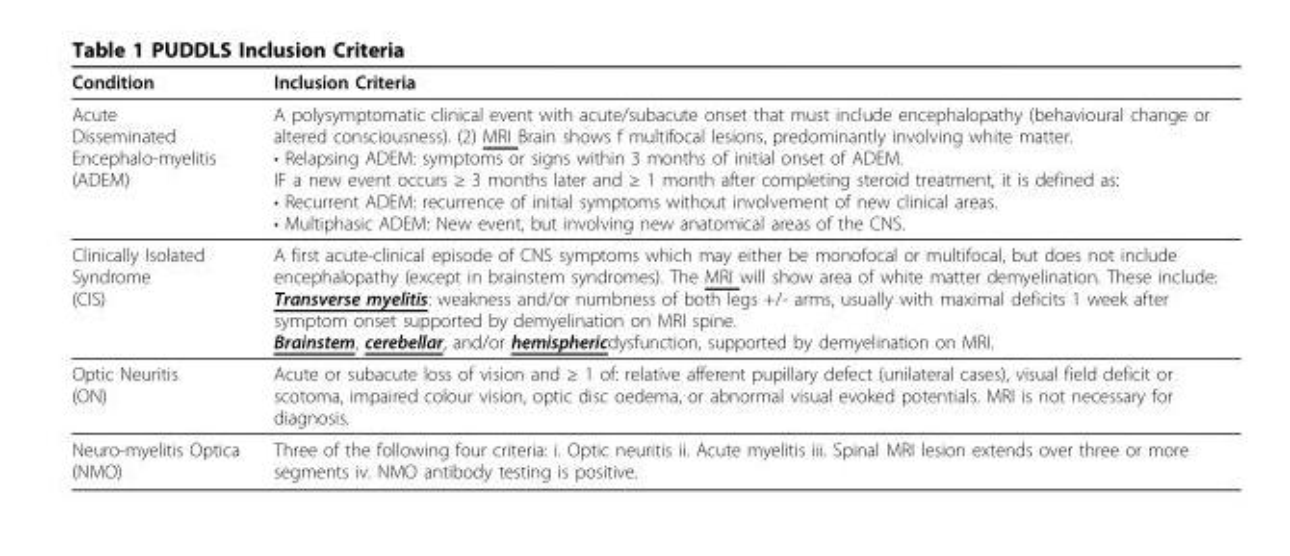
<table><thead><tr><td>Condition</td><td>Inclusion Criteria</td></tr></thead><tbody><tr><td>Acute Disseminated Encephalo-myelitis (ADEM)</td><td>A polysymptomatic clinical event with acute/subacute onset that must include encephalopathy (behavioural change or altered consciousness). (2) MRI Brain shows f multifocal lesions, predominantly involving white matter. • Relapsing ADEM: symptoms or signs within 3 months of initial onset of ADEM. IF a new event occurs ≥ 3 months later and ≥ 1 month after completing steroid treatment, it is defined as: • Recurrent ADEM: recurrence of initial symptoms without involvement of new clinical areas. • Multiphasic ADEM: New event, but involving new anatomical areas of the CNS.</td></tr><tr><td>Clinically Isolated Syndrome (CIS)</td><td>A first acute-clinical episode of CNS symptoms which may either be monofocal or multifocal, but does not include encephalopathy (except in brainstem syndromes). The MRI will show area of white matter demyelination. These include: Transverse myelitis: weakness and/or numbness of both legs +/- arms, usually with maximal deficits 1 week after symptom onset supported by demyelination on MRI spine. Brainstem, cerebellar, and/or hemisphericdysfunction, supported by demyelination on MRI.</td></tr><tr><td>Optic Neuritis (ON)</td><td>Acute or subacute loss of vision and ≥ 1 of: relative afferent pupillary defect (unilateral cases), visual field deficit or scotoma, impaired colour vision, optic disc oedema, or abnormal visual evoked potentials. MRI is not necessary for diagnosis.</td></tr><tr><td>Neuro-myelitis Optica (NMO)</td><td>Three of the following four criteria: i. Optic neuritis ii. Acute myelitis iii. Spinal MRI lesion extends over three or more segments iv. NMO antibody testing is positive.</td></tr></tbody></table>